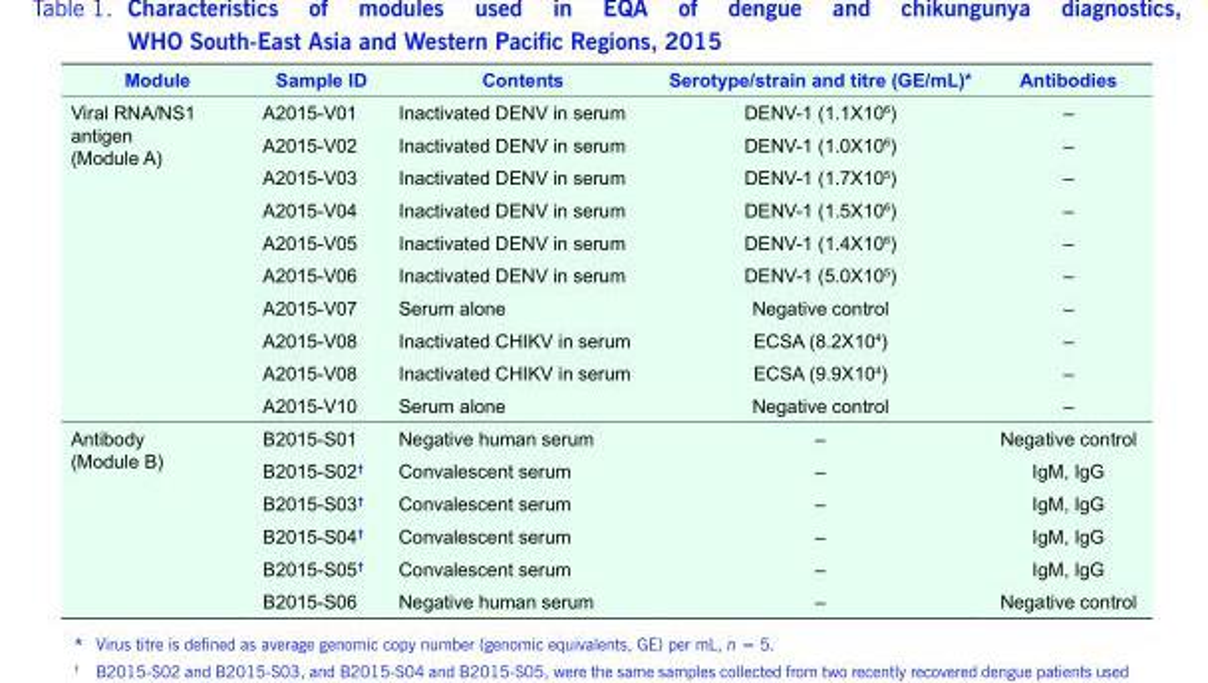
<table><thead><tr><td>Module</td><td>Sample ID</td><td>Contents</td><td>Serotype/strain and titre (GE/mL)*</td><td>Antibodies</td></tr></thead><tbody><tr><td rowspan="10">Viral RNA/NS1 antigen (Module A)</td><td>A2015-V01</td><td>Inactivated DENV in serum</td><td>DENV-1 (1.1X106)</td><td>–</td></tr><tr><td>A2015-V02</td><td>Inactivated DENV in serum</td><td>DENV-1 (1.0X106)</td><td>–</td></tr><tr><td>A2015-V03</td><td>Inactivated DENV in serum</td><td>DENV-1 (1.7X105)</td><td>–</td></tr><tr><td>A2015-V04</td><td>Inactivated DENV in serum</td><td>DENV-1 (1.5X106)</td><td>–</td></tr><tr><td>A2015-V05</td><td>Inactivated DENV in serum</td><td>DENV-1 (1.4X106)</td><td>–</td></tr><tr><td>A2015-V06</td><td>Inactivated DENV in serum</td><td>DENV-1 (5.0X105)</td><td>–</td></tr><tr><td>A2015-V07</td><td>Serum alone</td><td>Negative control</td><td>–</td></tr><tr><td>A2015-V08</td><td>Inactivated CHIKV in serum</td><td>ECSA (8.2X104)</td><td>–</td></tr><tr><td>A2015-V08</td><td>Inactivated CHIKV in serum</td><td>ECSA (9.9X104)</td><td>–</td></tr><tr><td>A2015-V10</td><td>Serum alone</td><td>Negative control</td><td>–</td></tr><tr><td rowspan="6">Antibody (Module B)</td><td>B2015-S01</td><td>Negative human serum</td><td>–</td><td>Negative control</td></tr><tr><td>B2015-S02<sup>†</sup></td><td>Convalescent serum</td><td>–</td><td>IgM, IgG</td></tr><tr><td>B2015-S03<sup>†</sup></td><td>Convalescent serum</td><td>–</td><td>IgM, IgG</td></tr><tr><td>B2015-S04<sup>†</sup></td><td>Convalescent serum</td><td>–</td><td>IgM, IgG</td></tr><tr><td>B2015-S05<sup>†</sup></td><td>Convalescent serum</td><td>–</td><td>IgM, IgG</td></tr><tr><td>B2015-S06</td><td>Negative human serum</td><td>–</td><td>Negative control</td></tr></tbody></table>